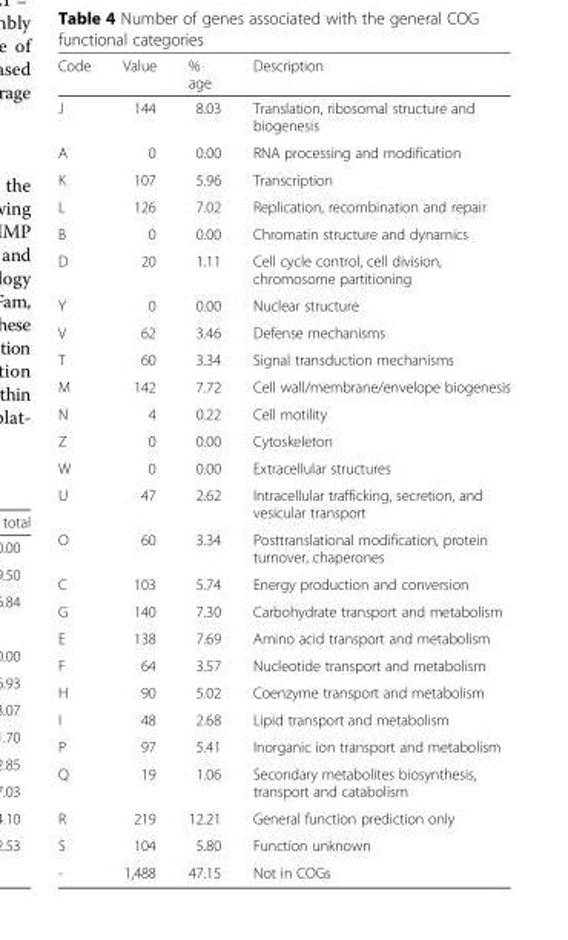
<table><thead><tr><td>Code</td><td>Value</td><td>% age</td><td>Description</td></tr></thead><tbody><tr><td>J</td><td>144</td><td>8.03</td><td>Translation, ribosomal structure and biogenesis</td></tr><tr><td>A</td><td>0</td><td>0.00</td><td>RNA processing and modification</td></tr><tr><td>K</td><td>107</td><td>5.96</td><td>Transcription</td></tr><tr><td>L</td><td>126</td><td>7.02</td><td>Replication, recombination and repair</td></tr><tr><td>B</td><td>0</td><td>0.00</td><td>Chromatin structure and dynamics</td></tr><tr><td>D</td><td>20</td><td>1.11</td><td>Cell cycle control, cell division, chromosome partitioning</td></tr><tr><td>Y</td><td>0</td><td>0.00</td><td>Nuclear structure</td></tr><tr><td>V</td><td>62</td><td>3.46</td><td>Defense mechanisms</td></tr><tr><td>T</td><td>60</td><td>3.34</td><td>Signal transduction mechanisms</td></tr><tr><td>M</td><td>142</td><td>7.72</td><td>Cell wall/membrane/envelope biogenesis</td></tr><tr><td>N</td><td>4</td><td>0.22</td><td>Cell motility</td></tr><tr><td>Z</td><td>0</td><td>0.00</td><td>Cytoskeleton</td></tr><tr><td>W</td><td>0</td><td>0.00</td><td>Extracellular structures</td></tr><tr><td>U</td><td>47</td><td>2.62</td><td>Intracellular trafficking, secretion, and vesicular transport</td></tr><tr><td>O</td><td>60</td><td>3.34</td><td>Posttranslational modification, protein turnover, chaperones</td></tr><tr><td>C</td><td>103</td><td>5.74</td><td>Energy production and conversion</td></tr><tr><td>G</td><td>140</td><td>7.30</td><td>Carbohydrate transport and metabolism</td></tr><tr><td>E</td><td>138</td><td>7.69</td><td>Amino acid transport and metabolism</td></tr><tr><td>F</td><td>64</td><td>3.57</td><td>Nucleotide transport and metabolism</td></tr><tr><td>H</td><td>90</td><td>5.02</td><td>Coenzyme transport and metabolism</td></tr><tr><td>I</td><td>48</td><td>2.68</td><td>Lipid transport and metabolism</td></tr><tr><td>P</td><td>97</td><td>5.41</td><td>Inorganic ion transport and metabolism</td></tr><tr><td>Q</td><td>19</td><td>1.06</td><td>Secondary metabolites biosynthesis, transport and catabolism</td></tr><tr><td>R</td><td>219</td><td>12.21</td><td>General function prediction only</td></tr><tr><td>S</td><td>104</td><td>5.80</td><td>Function unknown</td></tr><tr><td>-</td><td>1,488</td><td>47.15</td><td>Not in COGs</td></tr></tbody></table>